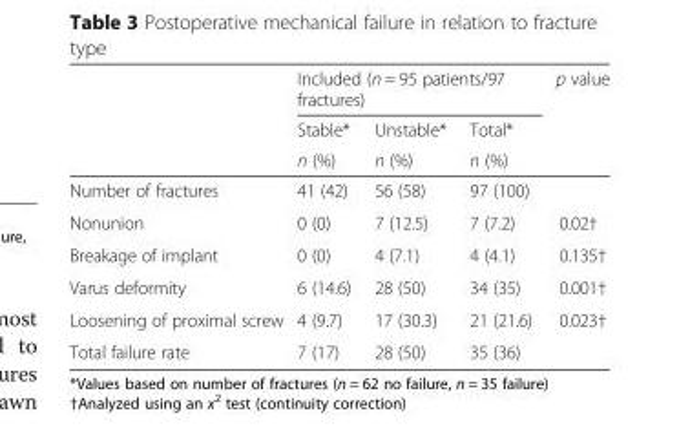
<table><thead><tr><td rowspan="3"></td><td colspan="3">Included (n = 95 patients/97 fractures)</td><td rowspan="3">p value</td></tr><tr><td rowspan="2">Stable* n (%)</td><td rowspan="2">Unstable* n (%)</td><td rowspan="2">Total* n (%)</td></tr><tr></tr></thead><tbody><tr><td>Number of fractures</td><td>41 (42)</td><td>56 (58)</td><td>97 (100)</td><td></td></tr><tr><td>Nonunion</td><td>0 (0)</td><td>7 (12.5)</td><td>7 (7.2)</td><td>0.02†</td></tr><tr><td>Breakage of implant</td><td>0 (0)</td><td>4 (7.1)</td><td>4 (4.1)</td><td>0.135†</td></tr><tr><td>Varus deformity</td><td>6 (14.6)</td><td>28 (50)</td><td>34 (35)</td><td>0.001†</td></tr><tr><td>Loosening of proximal screw</td><td>4 (9.7)</td><td>17 (30.3)</td><td>21 (21.6)</td><td>0.023†</td></tr><tr><td>Total failure rate</td><td>7 (17)</td><td>28 (50)</td><td>35 (36)</td><td></td></tr></tbody></table>